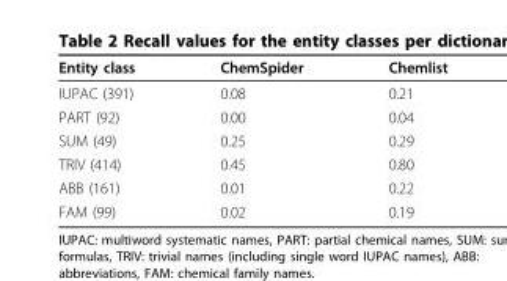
<table><thead><tr><td>Entity class</td><td>ChemSpider</td><td>Chemlist</td></tr></thead><tbody><tr><td>IUPAC (391)</td><td>0.08</td><td>0.21</td></tr><tr><td>PART (92)</td><td>0.00</td><td>0.04</td></tr><tr><td>SUM (49)</td><td>0.25</td><td>0.29</td></tr><tr><td>TRIV (414)</td><td>0.45</td><td>0.80</td></tr><tr><td>ABB (161)</td><td>0.01</td><td>0.22</td></tr><tr><td>FAM (99)</td><td>0.02</td><td>0.19</td></tr></tbody></table>